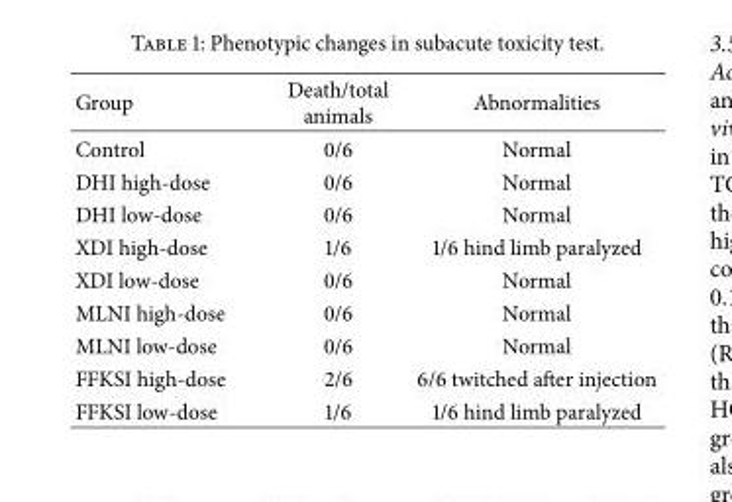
<table><thead><tr><td>Group</td><td>Death/total animals</td><td>Abnormalities</td></tr></thead><tbody><tr><td>Control</td><td>0/6</td><td>Normal</td></tr><tr><td>DHI high-dose</td><td>0/6</td><td>Normal</td></tr><tr><td>DHI low-dose</td><td>0/6</td><td>Normal</td></tr><tr><td>XDI high-dose</td><td>1/6</td><td>1/6 hind limb paralyzed</td></tr><tr><td>XDI low-dose</td><td>0/6</td><td>Normal</td></tr><tr><td>MLNI high-dose</td><td>0/6</td><td>Normal</td></tr><tr><td>MLNI low-dose</td><td>0/6</td><td>Normal</td></tr><tr><td>FFKSI high-dose</td><td>2/6</td><td>6/6 twitched after injection</td></tr><tr><td>FFKSI low-dose</td><td>1/6</td><td>1/6 hind limb paralyzed</td></tr></tbody></table>